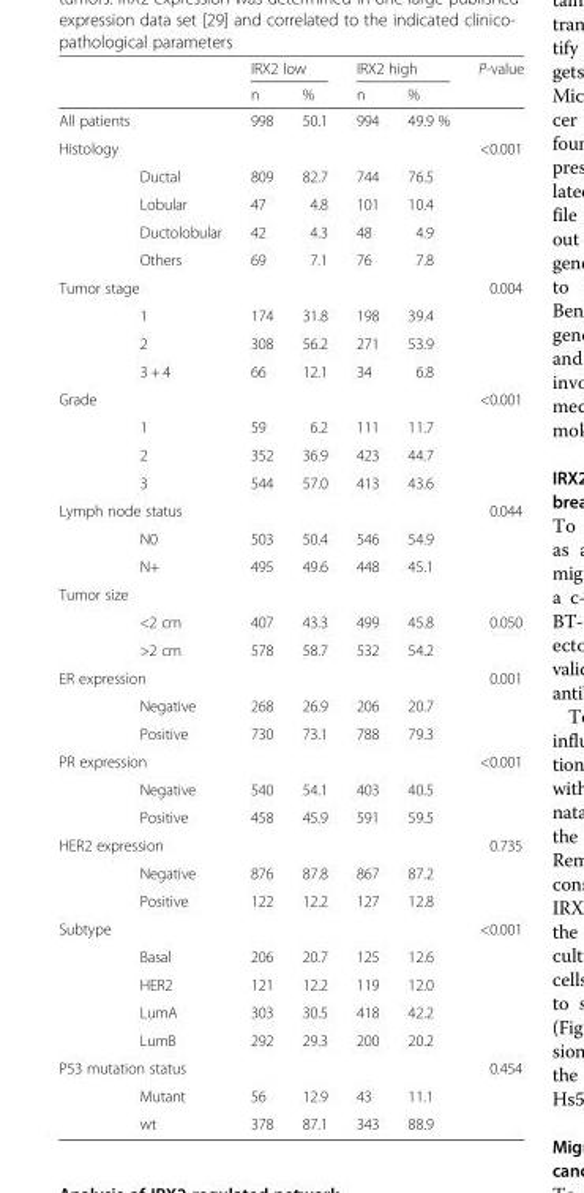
<table><thead><tr><td rowspan="2"></td><td rowspan="2"></td><td colspan="2">IRX2 low</td><td colspan="2">IRX2 high</td><td rowspan="2">P-value</td></tr><tr><td>n</td><td>%</td><td>n</td><td>%</td></tr></thead><tbody><tr><td colspan="2">All patients</td><td>998</td><td>50.1</td><td>994</td><td>49.9 %</td><td></td></tr><tr><td colspan="6">Histology</td><td rowspan="5">&lt;0.001</td></tr><tr><td></td><td>Ductal</td><td>809</td><td>82.7</td><td>744</td><td>76.5</td></tr><tr><td></td><td>Lobular</td><td>47</td><td>4.8</td><td>101</td><td>10.4</td></tr><tr><td></td><td>Ductolobular</td><td>42</td><td>4.3</td><td>48</td><td>4.9</td></tr><tr><td></td><td>Others</td><td>69</td><td>7.1</td><td>76</td><td>7.8</td></tr><tr><td colspan="6">Tumor stage</td><td rowspan="4">0.004</td></tr><tr><td></td><td>1</td><td>174</td><td>31.8</td><td>198</td><td>39.4</td></tr><tr><td></td><td>2</td><td>308</td><td>56.2</td><td>271</td><td>53.9</td></tr><tr><td></td><td>3 + 4</td><td>66</td><td>12.1</td><td>34</td><td>6.8</td></tr><tr><td colspan="6">Grade</td><td rowspan="4">&lt;0.001</td></tr><tr><td></td><td>1</td><td>59</td><td>6.2</td><td>111</td><td>11.7</td></tr><tr><td></td><td>2</td><td>352</td><td>36.9</td><td>423</td><td>44.7</td></tr><tr><td></td><td>3</td><td>544</td><td>57.0</td><td>413</td><td>43.6</td></tr><tr><td colspan="6">Lymph node status</td><td rowspan="3">0.044</td></tr><tr><td></td><td>N0</td><td>503</td><td>50.4</td><td>546</td><td>54.9</td></tr><tr><td></td><td>N+</td><td>495</td><td>49.6</td><td>448</td><td>45.1</td></tr><tr><td colspan="7">Tumor size</td></tr><tr><td></td><td>&lt;2 cm</td><td>407</td><td>43.3</td><td>499</td><td>45.8</td><td>0.050</td></tr><tr><td></td><td>&gt;2 cm</td><td>578</td><td>58.7</td><td>532</td><td>54.2</td><td></td></tr><tr><td colspan="6">ER expression</td><td rowspan="3">0.001</td></tr><tr><td></td><td>Negative</td><td>268</td><td>26.9</td><td>206</td><td>20.7</td></tr><tr><td></td><td>Positive</td><td>730</td><td>73.1</td><td>788</td><td>79.3</td></tr><tr><td colspan="6">PR expression</td><td rowspan="3">&lt;0.001</td></tr><tr><td></td><td>Negative</td><td>540</td><td>54.1</td><td>403</td><td>40.5</td></tr><tr><td></td><td>Positive</td><td>458</td><td>45.9</td><td>591</td><td>59.5</td></tr><tr><td colspan="6">HER2 expression</td><td rowspan="3">0.735</td></tr><tr><td></td><td>Negative</td><td>876</td><td>87.8</td><td>867</td><td>87.2</td></tr><tr><td></td><td>Positive</td><td>122</td><td>12.2</td><td>127</td><td>12.8</td></tr><tr><td colspan="6">Subtype</td><td rowspan="5">&lt;0.001</td></tr><tr><td></td><td>Basal</td><td>206</td><td>20.7</td><td>125</td><td>12.6</td></tr><tr><td></td><td>HER2</td><td>121</td><td>12.2</td><td>119</td><td>12.0</td></tr><tr><td></td><td>LumA</td><td>303</td><td>30.5</td><td>418</td><td>42.2</td></tr><tr><td></td><td>LumB</td><td>292</td><td>29.3</td><td>200</td><td>20.2</td></tr><tr><td colspan="6">P53 mutation status</td><td rowspan="3">0.454</td></tr><tr><td></td><td>Mutant</td><td>56</td><td>12.9</td><td>43</td><td>11.1</td></tr><tr><td></td><td>wt</td><td>378</td><td>87.1</td><td>343</td><td>88.9</td></tr></tbody></table>